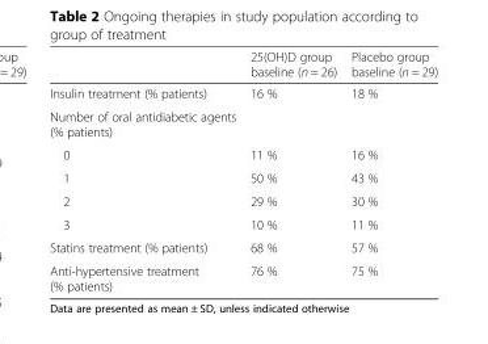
<table><thead><tr><td></td><td>25(OH)D group baseline (n = 26)</td><td>Placebo group baseline (n = 29)</td></tr></thead><tbody><tr><td>Insulin treatment (% patients)</td><td>16 %</td><td>18 %</td></tr><tr><td colspan="3">Number of oral antidiabetic agents (% patients)</td></tr><tr><td>0</td><td>11 %</td><td>16 %</td></tr><tr><td>1</td><td>50 %</td><td>43 %</td></tr><tr><td>2</td><td>29 %</td><td>30 %</td></tr><tr><td>3</td><td>10 %</td><td>11 %</td></tr><tr><td>Statins treatment (% patients)</td><td>68 %</td><td>57 %</td></tr><tr><td>Anti-hypertensive treatment (% patients)</td><td>76 %</td><td>75 %</td></tr></tbody></table>